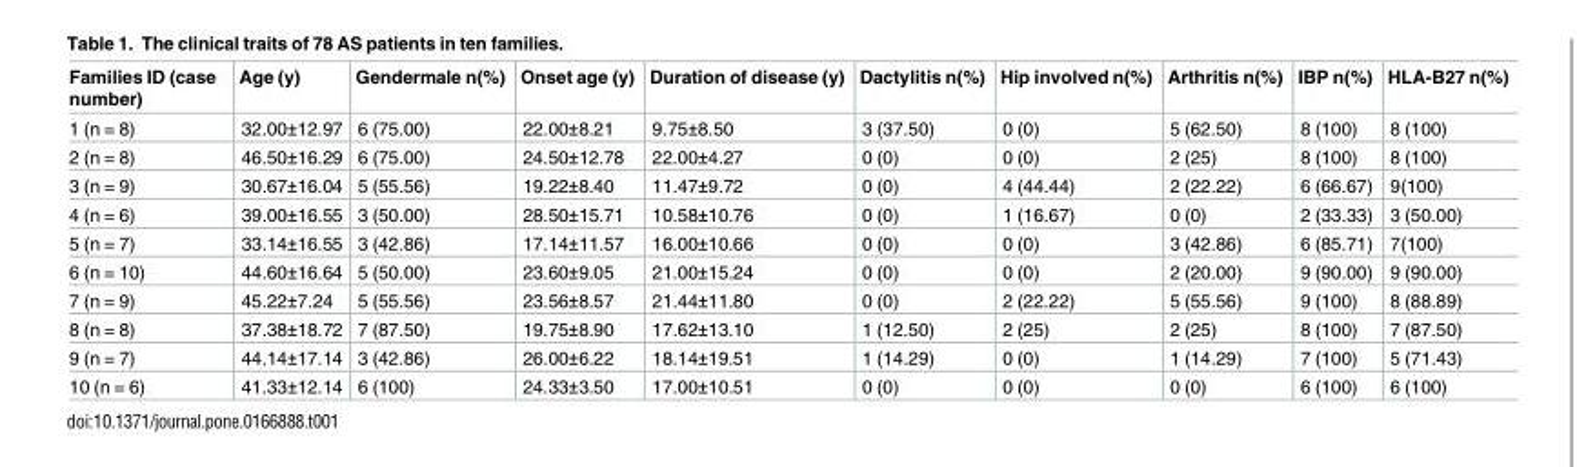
<table><thead><tr><td>Families ID (case number)</td><td>Age (y)</td><td>Gendermale n(%)</td><td>Onset age (y)</td><td>Duration of disease (y)</td><td>Dactylitis n(%)</td><td>Hip involved n(%)</td><td>Arthritis n(%)</td><td>IBP n(%)</td><td>HLA-B27 n(%)</td></tr></thead><tbody><tr><td>1 (n = 8)</td><td>32.00±12.97</td><td>6 (75.00)</td><td>22.00±8.21</td><td>9.75±8.50</td><td>3 (37.50)</td><td>0 (0)</td><td>5 (62.50)</td><td>8 (100)</td><td>8 (100)</td></tr><tr><td>2 (n = 8)</td><td>46.50±16.29</td><td>6 (75.00)</td><td>24.50±12.78</td><td>22.00±4.27</td><td>0 (0)</td><td>0 (0)</td><td>2 (25)</td><td>8 (100)</td><td>8 (100)</td></tr><tr><td>3 (n = 9)</td><td>30.67±16.04</td><td>5 (55.56)</td><td>19.22±8.40</td><td>11.47±9.72</td><td>0 (0)</td><td>4 (44.44)</td><td>2 (22.22)</td><td>6 (66.67)</td><td>9(100)</td></tr><tr><td>4 (n = 6)</td><td>39.00±16.55</td><td>3 (50.00)</td><td>28.50±15.71</td><td>10.58±10.76</td><td>0 (0)</td><td>1 (16.67)</td><td>0 (0)</td><td>2 (33.33)</td><td>3 (50.00)</td></tr><tr><td>5 (n = 7)</td><td>33.14±16.55</td><td>3 (42.86)</td><td>17.14±11.57</td><td>16.00±10.66</td><td>0 (0)</td><td>0 (0)</td><td>3 (42.86)</td><td>6 (85.71)</td><td>7(100)</td></tr><tr><td>6 (n = 10)</td><td>44.60±16.64</td><td>5 (50.00)</td><td>23.60±9.05</td><td>21.00±15.24</td><td>0 (0)</td><td>0 (0)</td><td>2 (20.00)</td><td>9 (90.00)</td><td>9 (90.00)</td></tr><tr><td>7 (n = 9)</td><td>45.22±7.24</td><td>5 (55.56)</td><td>23.56±8.57</td><td>21.44±11.80</td><td>0 (0)</td><td>2 (22.22)</td><td>5 (55.56)</td><td>9 (100)</td><td>8 (88.89)</td></tr><tr><td>8 (n = 8)</td><td>37.38±18.72</td><td>7 (87.50)</td><td>19.75±8.90</td><td>17.62±13.10</td><td>1 (12.50)</td><td>2 (25)</td><td>2 (25)</td><td>8 (100)</td><td>7 (87.50)</td></tr><tr><td>9 (n = 7)</td><td>44.14±17.14</td><td>3 (42.86)</td><td>26.00±6.22</td><td>18.14±19.51</td><td>1 (14.29)</td><td>0 (0)</td><td>1 (14.29)</td><td>7 (100)</td><td>5 (71.43)</td></tr><tr><td>10 (n = 6)</td><td>41.33±12.14</td><td>6 (100)</td><td>24.33±3.50</td><td>17.00±10.51</td><td>0 (0)</td><td>0 (0)</td><td>0 (0)</td><td>6 (100)</td><td>6 (100)</td></tr></tbody></table>